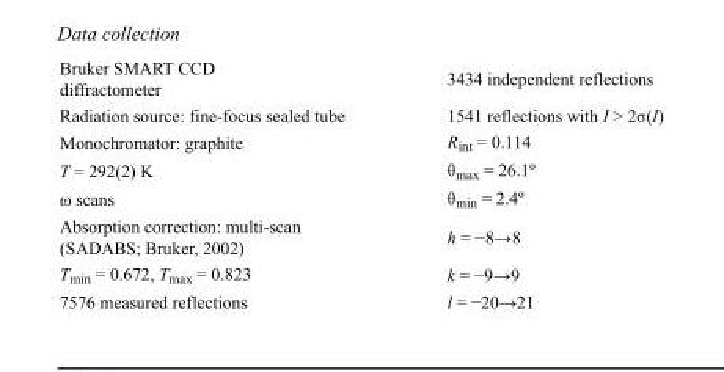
<table><tbody><tr><td>Bruker SMART CCD diffractometer</td><td>3434 independent reflections</td></tr><tr><td>Radiation source: fine-focus sealed tube</td><td>1541 reflections with I &gt; 2σ(I)</td></tr><tr><td>Monochromator: graphite</td><td>R<sub>int</sub> = 0.114</td></tr><tr><td>T = 292(2) K</td><td>θ<sub>max</sub> = 26.1º</td></tr><tr><td>ω scans</td><td>θ<sub>min</sub> = 2.4º</td></tr><tr><td>Absorption correction: multi-scan (SADABS; Bruker, 2002)</td><td>h = −8→8</td></tr><tr><td>T<sub>min</sub> = 0.672, T<sub>max</sub> = 0.823</td><td>k = −9→9</td></tr><tr><td>7576 measured reflections</td><td>l = −20→21</td></tr></tbody></table>